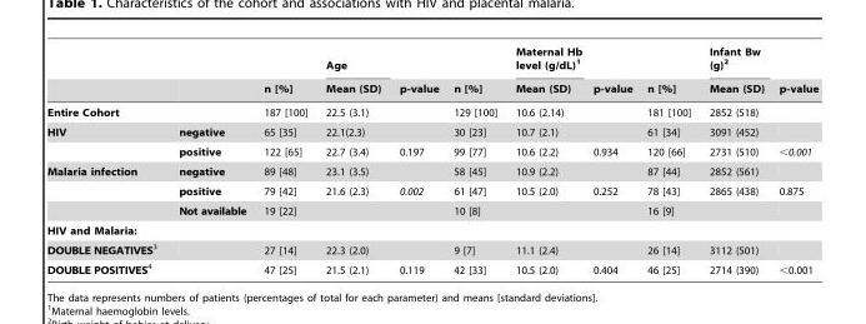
<table><thead><tr><td rowspan="2"></td><td rowspan="2"></td><td rowspan="2">n [%]</td><td rowspan="2">Age Mean (SD)</td><td rowspan="2">p-value</td><td rowspan="2">n [%]</td><td rowspan="2">Maternal Hb level (g/dL)<sup>1</sup> Mean (SD)</td><td rowspan="2">p-value</td><td rowspan="2">n [%]</td><td rowspan="2">Infant Bw (g)<sup>2</sup> Mean (SD)</td><td rowspan="2">p-value</td></tr><tr></tr></thead><tbody><tr><td>Entire Cohort</td><td></td><td>187 [100]</td><td>22.5 (3.1)</td><td></td><td>129 [100]</td><td>10.6 (2.14)</td><td></td><td>181 [100]</td><td>2852 (518)</td><td></td></tr><tr><td rowspan="2">HIV</td><td>negative</td><td>65 [35]</td><td>22.1(2.3)</td><td></td><td>30 [23]</td><td>10.7 (2.1)</td><td></td><td>61 [34]</td><td>3091 (452)</td><td></td></tr><tr><td>positive</td><td>122 [65]</td><td>22.7 (3.4)</td><td>0.197</td><td>99 [77]</td><td>10.6 (2.2)</td><td>0.934</td><td>120 [66]</td><td>2731 (510)</td><td>&lt;0.001</td></tr><tr><td rowspan="3">Malaria infection</td><td>negative</td><td>89 [48]</td><td>23.1 (3.5)</td><td></td><td>58 [45]</td><td>10.9 (2.2)</td><td></td><td>87 [44]</td><td>2852 (561)</td><td></td></tr><tr><td>positive</td><td>79 [42]</td><td>21.6 (2.3)</td><td>0.002</td><td>61 [47]</td><td>10.5 (2.0)</td><td>0.252</td><td>78 [43]</td><td>2865 (438)</td><td>0.875</td></tr><tr><td>Not available</td><td>19 [22]</td><td></td><td></td><td>10 [8]</td><td></td><td></td><td>16 [9]</td><td></td><td></td></tr><tr><td colspan="11">HIV and Malaria:</td></tr><tr><td>DOUBLE NEGATIVES3</td><td></td><td>27 [14]</td><td>22.3 (2.0)</td><td></td><td>9 [7]</td><td>11.1 (2.4)</td><td></td><td>26 [14]</td><td>3112 (501)</td><td></td></tr><tr><td>DOUBLE POSITIVES4</td><td></td><td>47 [25]</td><td>21.5 (2.1)</td><td>0.119</td><td>42 [33]</td><td>10.5 (2.0)</td><td>0.404</td><td>46 [25]</td><td>2714 (390)</td><td>&lt;0.001</td></tr></tbody></table>